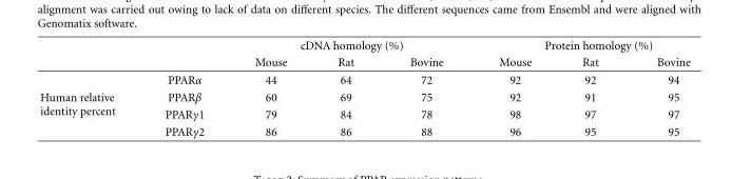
<table><thead><tr><td rowspan="2"></td><td rowspan="2"></td><td colspan="3">cDNA homology (%)</td><td colspan="3">Protein homology (%)</td></tr><tr><td>Mouse</td><td>Rat</td><td>Bovine</td><td>Mouse</td><td>Rat</td><td>Bovine</td></tr></thead><tbody><tr><td rowspan="4">Human relative identity percent</td><td>PPARα</td><td>44</td><td>64</td><td>72</td><td>92</td><td>92</td><td>94</td></tr><tr><td>PPARβ</td><td>60</td><td>69</td><td>75</td><td>92</td><td>91</td><td>95</td></tr><tr><td>PPARγ1</td><td>79</td><td>84</td><td>78</td><td>98</td><td>97</td><td>97</td></tr><tr><td>PPARγ2</td><td>86</td><td>86</td><td>88</td><td>96</td><td>95</td><td>95</td></tr></tbody></table>